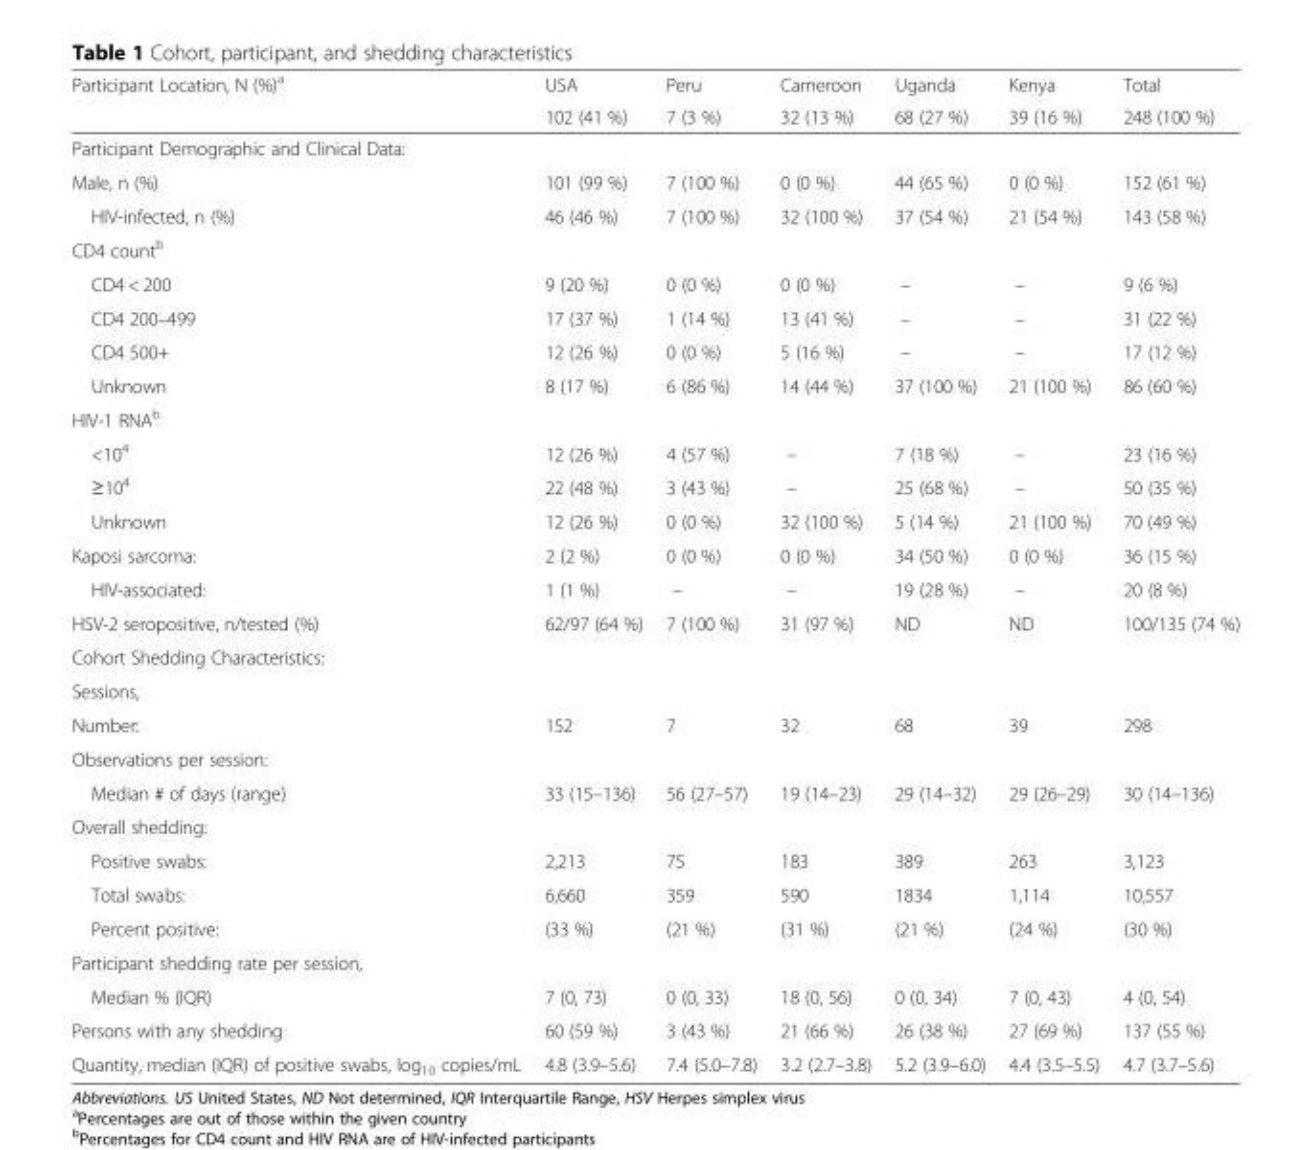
<table><thead><tr><td rowspan="2">Participant Location, N (%)<sup>a</sup></td><td rowspan="2">USA 102 (41 %)</td><td rowspan="2">Peru 7 (3 %)</td><td rowspan="2">Cameroon 32 (13 %)</td><td rowspan="2">Uganda 68 (27 %)</td><td rowspan="2">Kenya 39 (16 %)</td><td rowspan="2">Total 248 (100 %)</td></tr><tr></tr></thead><tbody><tr><td colspan="7">Participant Demographic and Clinical Data:</td></tr><tr><td>Male, n (%)</td><td>101 (99 %)</td><td>7 (100 %)</td><td>0 (0 %)</td><td>44 (65 %)</td><td>0 (0 %)</td><td>152 (61 %)</td></tr><tr><td>HIV-infected, n (%)</td><td>46 (46 %)</td><td>7 (100 %)</td><td>32 (100 %)</td><td>37 (54 %)</td><td>21 (54 %)</td><td>143 (58 %)</td></tr><tr><td colspan="7">CD4 count<sup>b</sup></td></tr><tr><td>CD4 &lt; 200</td><td>9 (20 %)</td><td>0 (0 %)</td><td>0 (0 %)</td><td>–</td><td>–</td><td>9 (6 %)</td></tr><tr><td>CD4 200–499</td><td>17 (37 %)</td><td>1 (14 %)</td><td>13 (41 %)</td><td>–</td><td>–</td><td>31 (22 %)</td></tr><tr><td>CD4 500+</td><td>12 (26 %)</td><td>0 (0 %)</td><td>5 (16 %)</td><td>–</td><td>–</td><td>17 (12 %)</td></tr><tr><td>Unknown</td><td>8 (17 %)</td><td>6 (86 %)</td><td>14 (44 %)</td><td>37 (100 %)</td><td>21 (100 %)</td><td>86 (60 %)</td></tr><tr><td colspan="7">HIV-1 RNA<sup>b</sup></td></tr><tr><td>&lt;10<sup>4</sup></td><td>12 (26 %)</td><td>4 (57 %)</td><td>–</td><td>7 (18 %)</td><td>–</td><td>23 (16 %)</td></tr><tr><td>≥10<sup>4</sup></td><td>22 (48 %)</td><td>3 (43 %)</td><td>–</td><td>25 (68 %)</td><td>–</td><td>50 (35 %)</td></tr><tr><td>Unknown</td><td>12 (26 %)</td><td>0 (0 %)</td><td>32 (100 %)</td><td>5 (14 %)</td><td>21 (100 %)</td><td>70 (49 %)</td></tr><tr><td>Kaposi sarcoma:</td><td>2 (2 %)</td><td>0 (0 %)</td><td>0 (0 %)</td><td>34 (50 %)</td><td>0 (0 %)</td><td>36 (15 %)</td></tr><tr><td>HIV-associated:</td><td>1 (1 %)</td><td>–</td><td>–</td><td>19 (28 %)</td><td>–</td><td>20 (8 %)</td></tr><tr><td>HSV-2 seropositive, n/tested (%)</td><td>62/97 (64 %)</td><td>7 (100 %)</td><td>31 (97 %)</td><td>ND</td><td>ND</td><td>100/135 (74 %)</td></tr><tr><td colspan="7">Cohort Shedding Characteristics:</td></tr><tr><td colspan="7">Sessions,</td></tr><tr><td>Number:</td><td>152</td><td>7</td><td>32</td><td>68</td><td>39</td><td>298</td></tr><tr><td colspan="7">Observations per session:</td></tr><tr><td>Median # of days (range)</td><td>33 (15–136)</td><td>56 (27–57)</td><td>19 (14–23)</td><td>29 (14–32)</td><td>29 (26–29)</td><td>30 (14–136)</td></tr><tr><td colspan="7">Overall shedding:</td></tr><tr><td>Positive swabs:</td><td>2,213</td><td>75</td><td>183</td><td>389</td><td>263</td><td>3,123</td></tr><tr><td>Total swabs:</td><td>6,660</td><td>359</td><td>590</td><td>1834</td><td>1,114</td><td>10,557</td></tr><tr><td>Percent positive:</td><td>(33 %)</td><td>(21 %)</td><td>(31 %)</td><td>(21 %)</td><td>(24 %)</td><td>(30 %)</td></tr><tr><td colspan="7">Participant shedding rate per session,</td></tr><tr><td>Median % (IQR)</td><td>7 (0, 73)</td><td>0 (0, 33)</td><td>18 (0, 56)</td><td>0 (0, 34)</td><td>7 (0, 43)</td><td>4 (0, 54)</td></tr><tr><td>Persons with any shedding</td><td>60 (59 %)</td><td>3 (43 %)</td><td>21 (66 %)</td><td>26 (38 %)</td><td>27 (69 %)</td><td>137 (55 %)</td></tr><tr><td>Quantity, median (IQR) of positive swabs, log<sub>10</sub> copies/mL</td><td>4.8 (3.9–5.6)</td><td>7.4 (5.0–7.8)</td><td>3.2 (2.7–3.8)</td><td>5.2 (3.9–6.0)</td><td>4.4 (3.5–5.5)</td><td>4.7 (3.7–5.6)</td></tr></tbody></table>